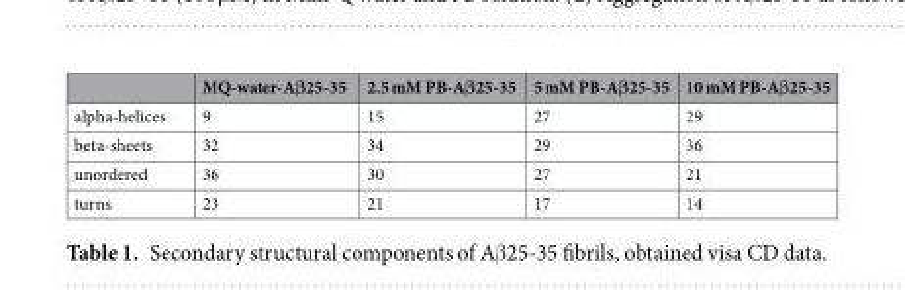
<table><thead><tr><td></td><td>MQ-water-Aβ25-35</td><td>2.5 mM PB-Aβ25-35</td><td>5 mM PB-Aβ25-35</td><td>10 mM PB-Aβ25-35</td></tr></thead><tbody><tr><td>alpha-helices</td><td>9</td><td>15</td><td>27</td><td>29</td></tr><tr><td>beta-sheets</td><td>32</td><td>34</td><td>29</td><td>36</td></tr><tr><td>unordered</td><td>36</td><td>30</td><td>27</td><td>21</td></tr><tr><td>turns</td><td>23</td><td>21</td><td>17</td><td>14</td></tr></tbody></table>